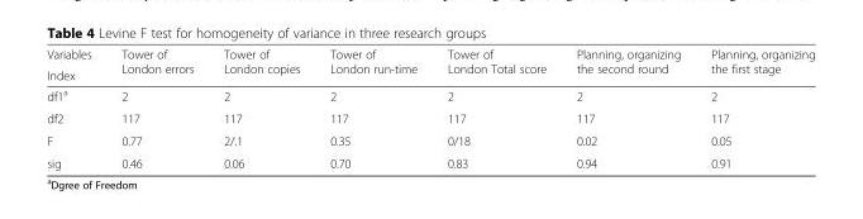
<table><thead><tr><td rowspan="2">Variables Index</td><td rowspan="2">Tower of London errors</td><td rowspan="2">Tower of London copies</td><td rowspan="2">Tower of London run-time</td><td rowspan="2">Tower of London Total score</td><td rowspan="2">Planning, organizing the second round</td><td rowspan="2">Planning, organizing the first stage</td></tr><tr></tr></thead><tbody><tr><td>df1<sup>a</sup></td><td>2</td><td>2</td><td>2</td><td>2</td><td>2</td><td>2</td></tr><tr><td>df2</td><td>117</td><td>117</td><td>117</td><td>117</td><td>117</td><td>117</td></tr><tr><td>F</td><td>0.77</td><td>2/.1</td><td>0.35</td><td>0/18</td><td>0.02</td><td>0.05</td></tr><tr><td>sig</td><td>0.46</td><td>0.06</td><td>0.70</td><td>0.83</td><td>0.94</td><td>0.91</td></tr></tbody></table>